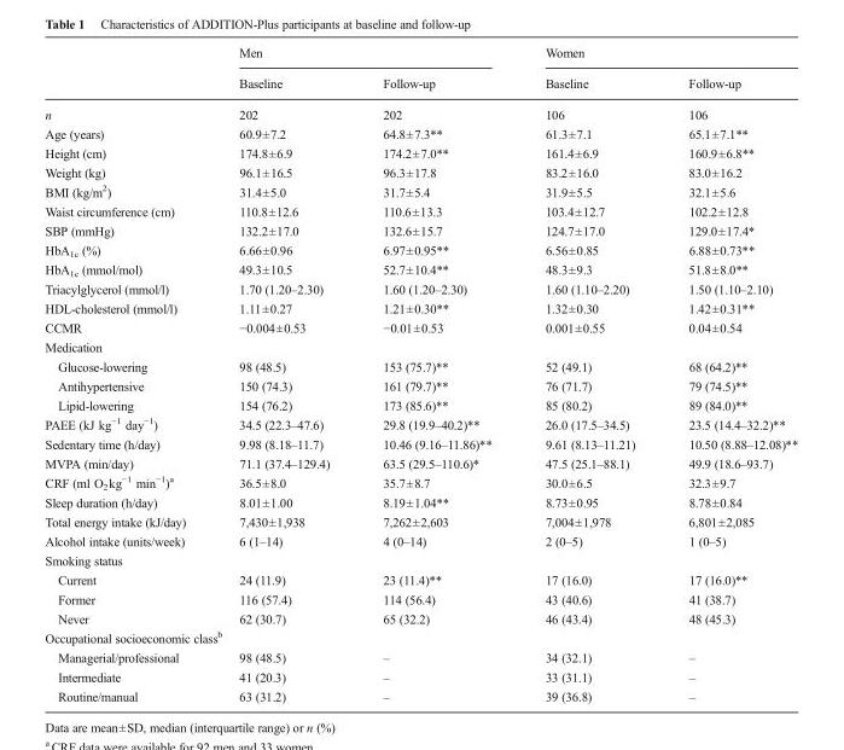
<table><thead><tr><td rowspan="2"></td><td colspan="2">Men</td><td colspan="2">Women</td></tr><tr><td>Baseline</td><td>Follow-up</td><td>Baseline</td><td>Follow-up</td></tr></thead><tbody><tr><td>n</td><td>202</td><td>202</td><td>106</td><td>106</td></tr><tr><td>Age (years)</td><td>60.9±7.2</td><td>64.8±7.3**</td><td>61.3±7.1</td><td>65.1±7.1**</td></tr><tr><td>Height (cm)</td><td>174.8±6.9</td><td>174.2±7.0**</td><td>161.4±6.9</td><td>160.9±6.8**</td></tr><tr><td>Weight (kg)</td><td>96.1±16.5</td><td>96.3±17.8</td><td>83.2±16.0</td><td>83.0±16.2</td></tr><tr><td>BMI (kg/m<sup>2</sup>)</td><td>31.4±5.0</td><td>31.7±5.4</td><td>31.9±5.5</td><td>32.1±5.6</td></tr><tr><td>Waist circumference (cm)</td><td>110.8±12.6</td><td>110.6±13.3</td><td>103.4±12.7</td><td>102.2±12.8</td></tr><tr><td>SBP (mmHg)</td><td>132.2±17.0</td><td>132.6±15.7</td><td>124.7±17.0</td><td>129.0±17.4*</td></tr><tr><td>HbA<sub>1c</sub> (%)</td><td>6.66±0.96</td><td>6.97±0.95**</td><td>6.56±0.85</td><td>6.88±0.73**</td></tr><tr><td>HbA<sub>1c</sub> (mmol/mol)</td><td>49.3±10.5</td><td>52.7±10.4**</td><td>48.3±9.3</td><td>51.8±8.0**</td></tr><tr><td>Triacylglycerol (mmol/l)</td><td>1.70 (1.20–2.30)</td><td>1.60 (1.20–2.30)</td><td>1.60 (1.10–2.20)</td><td>1.50 (1.10–2.10)</td></tr><tr><td>HDL-cholesterol (mmol/l)</td><td>1.11±0.27</td><td>1.21±0.30**</td><td>1.32±0.30</td><td>1.42±0.31**</td></tr><tr><td>CCMR</td><td>−0.004±0.53</td><td>−0.01±0.53</td><td>0.001±0.55</td><td>0.04±0.54</td></tr><tr><td colspan="5">Medication</td></tr><tr><td>Glucose-lowering</td><td>98 (48.5)</td><td>153 (75.7)**</td><td>52 (49.1)</td><td>68 (64.2)**</td></tr><tr><td>Antihypertensive</td><td>150 (74.3)</td><td>161 (79.7)**</td><td>76 (71.7)</td><td>79 (74.5)**</td></tr><tr><td>Lipid-lowering</td><td>154 (76.2)</td><td>173 (85.6)**</td><td>85 (80.2)</td><td>89 (84.0)**</td></tr><tr><td>PAEE (kJ kg<sup>−1</sup> day<sup>−1</sup>)</td><td>34.5 (22.3–47.6)</td><td>29.8 (19.9–40.2)**</td><td>26.0 (17.5–34.5)</td><td>23.5 (14.4–32.2)**</td></tr><tr><td>Sedentary time (h/day)</td><td>9.98 (8.18–11.7)</td><td>10.46 (9.16–11.86)**</td><td>9.61 (8.13–11.21)</td><td>10.50 (8.88–12.08)**</td></tr><tr><td>MVPA (min/day)</td><td>71.1 (37.4–129.4)</td><td>63.5 (29.5–110.6)*</td><td>47.5 (25.1–88.1)</td><td>49.9 (18.6–93.7)</td></tr><tr><td>CRF (ml O<sub>2</sub>kg<sup>−1</sup> min<sup>−1</sup>)<sup>a</sup></td><td>36.5±8.0</td><td>35.7±8.7</td><td>30.0±6.5</td><td>32.3±9.7</td></tr><tr><td>Sleep duration (h/day)</td><td>8.01±1.00</td><td>8.19±1.04**</td><td>8.73±0.95</td><td>8.78±0.84</td></tr><tr><td>Total energy intake (kJ/day)</td><td>7,430±1,938</td><td>7,262±2,603</td><td>7,004±1,978</td><td>6,801±2,085</td></tr><tr><td>Alcohol intake (units/week)</td><td>6 (1–14)</td><td>4 (0–14)</td><td>2 (0–5)</td><td>1 (0–5)</td></tr><tr><td colspan="5">Smoking status</td></tr><tr><td>Current</td><td>24 (11.9)</td><td>23 (11.4)**</td><td>17 (16.0)</td><td>17 (16.0)**</td></tr><tr><td>Former</td><td>116 (57.4)</td><td>114 (56.4)</td><td>43 (40.6)</td><td>41 (38.7)</td></tr><tr><td>Never</td><td>62 (30.7)</td><td>65 (32.2)</td><td>46 (43.4)</td><td>48 (45.3)</td></tr><tr><td colspan="5">Occupational socioeconomic class<sup>b</sup></td></tr><tr><td>Managerial/professional</td><td>98 (48.5)</td><td>–</td><td>34 (32.1)</td><td>–</td></tr><tr><td>Intermediate</td><td>41 (20.3)</td><td>–</td><td>33 (31.1)</td><td>–</td></tr><tr><td>Routine/manual</td><td>63 (31.2)</td><td>–</td><td>39 (36.8)</td><td>–</td></tr></tbody></table>